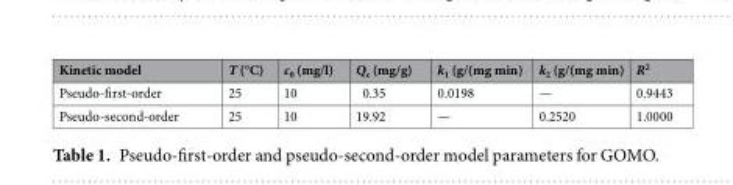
<table><thead><tr><td>Kinetic model</td><td>T (°C)</td><td>c<sub>0</sub> (mg/l)</td><td>Q<sub>e</sub> (mg/g)</td><td>k<sub>1</sub> (g/(mg min)</td><td>k<sub>2</sub> (g/(mg min)</td><td>R<sup>2</sup></td></tr></thead><tbody><tr><td>Pseudo-first-order</td><td>25</td><td>10</td><td>0.35</td><td>0.0198</td><td>—</td><td>0.9443</td></tr><tr><td>Pseudo-second-order</td><td>25</td><td>10</td><td>19.92</td><td>—</td><td>0.2520</td><td>1.0000</td></tr></tbody></table>